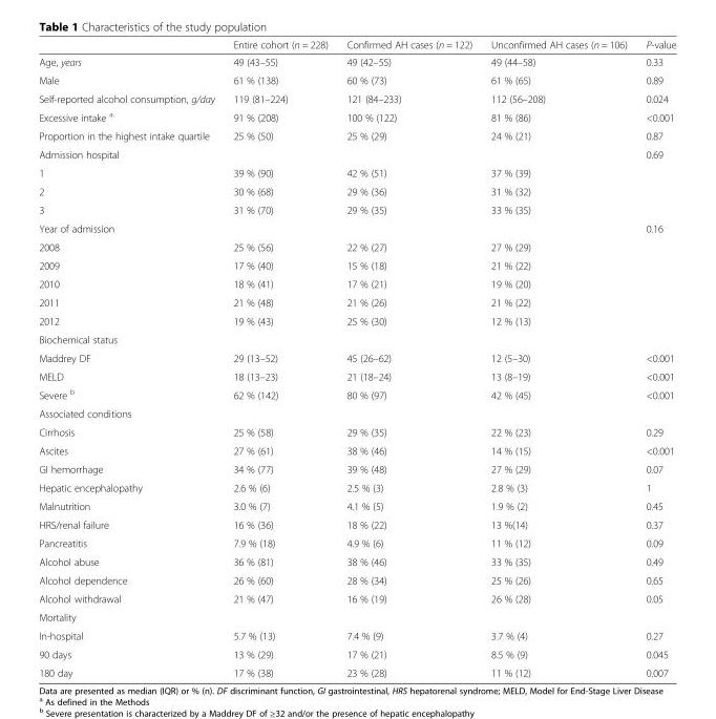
<table><thead><tr><td></td><td>Entire cohort (n = 228)</td><td>Confirmed AH cases (n = 122)</td><td>Unconfirmed AH cases (n = 106)</td><td>P-value</td></tr></thead><tbody><tr><td>Age, years</td><td>49 (43–55)</td><td>49 (42–55)</td><td>49 (44–58)</td><td>0.33</td></tr><tr><td>Male</td><td>61 % (138)</td><td>60 % (73)</td><td>61 % (65)</td><td>0.89</td></tr><tr><td>Self-reported alcohol consumption, g/day</td><td>119 (81–224)</td><td>121 (84–233)</td><td>112 (56–208)</td><td>0.024</td></tr><tr><td>Excessive intake <sup>a</sup></td><td>91 % (208)</td><td>100 % (122)</td><td>81 % (86)</td><td>&lt;0.001</td></tr><tr><td>Proportion in the highest intake quartile</td><td>25 % (50)</td><td>25 % (29)</td><td>24 % (21)</td><td>0.87</td></tr><tr><td colspan="4">Admission hospital</td><td rowspan="4">0.69</td></tr><tr><td>1</td><td>39 % (90)</td><td>42 % (51)</td><td>37 % (39)</td></tr><tr><td>2</td><td>30 % (68)</td><td>29 % (36)</td><td>31 % (32)</td></tr><tr><td>3</td><td>31 % (70)</td><td>29 % (35)</td><td>33 % (35)</td></tr><tr><td colspan="4">Year of admission</td><td rowspan="6">0.16</td></tr><tr><td>2008</td><td>25 % (56)</td><td>22 % (27)</td><td>27 % (29)</td></tr><tr><td>2009</td><td>17 % (40)</td><td>15 % (18)</td><td>21 % (22)</td></tr><tr><td>2010</td><td>18 % (41)</td><td>17 % (21)</td><td>19 % (20)</td></tr><tr><td>2011</td><td>21 % (48)</td><td>21 % (26)</td><td>21 % (22)</td></tr><tr><td>2012</td><td>19 % (43)</td><td>25 % (30)</td><td>12 % (13)</td></tr><tr><td colspan="5">Biochemical status</td></tr><tr><td>Maddrey DF</td><td>29 (13–52)</td><td>45 (26–62)</td><td>12 (5–30)</td><td>&lt;0.001</td></tr><tr><td>MELD</td><td>18 (13–23)</td><td>21 (18–24)</td><td>13 (8–19)</td><td>&lt;0.001</td></tr><tr><td>Severe <sup>b</sup></td><td>62 % (142)</td><td>80 % (97)</td><td>42 % (45)</td><td>&lt;0.001</td></tr><tr><td colspan="5">Associated conditions</td></tr><tr><td>Cirrhosis</td><td>25 % (58)</td><td>29 % (35)</td><td>22 % (23)</td><td>0.29</td></tr><tr><td>Ascites</td><td>27 % (61)</td><td>38 % (46)</td><td>14 % (15)</td><td>&lt;0.001</td></tr><tr><td>GI hemorrhage</td><td>34 % (77)</td><td>39 % (48)</td><td>27 % (29)</td><td>0.07</td></tr><tr><td>Hepatic encephalopathy</td><td>2.6 % (6)</td><td>2.5 % (3)</td><td>2.8 % (3)</td><td>1</td></tr><tr><td>Malnutrition</td><td>3.0 % (7)</td><td>4.1 % (5)</td><td>1.9 % (2)</td><td>0.45</td></tr><tr><td>HRS/renal failure</td><td>16 % (36)</td><td>18 % (22)</td><td>13 %(14)</td><td>0.37</td></tr><tr><td>Pancreatitis</td><td>7.9 % (18)</td><td>4.9 % (6)</td><td>11 % (12)</td><td>0.09</td></tr><tr><td>Alcohol abuse</td><td>36 % (81)</td><td>38 % (46)</td><td>33 % (35)</td><td>0.49</td></tr><tr><td>Alcohol dependence</td><td>26 % (60)</td><td>28 % (34)</td><td>25 % (26)</td><td>0.65</td></tr><tr><td>Alcohol withdrawal</td><td>21 % (47)</td><td>16 % (19)</td><td>26 % (28)</td><td>0.05</td></tr><tr><td colspan="5">Mortality</td></tr><tr><td>In-hospital</td><td>5.7 % (13)</td><td>7.4 % (9)</td><td>3.7 % (4)</td><td>0.27</td></tr><tr><td>90 days</td><td>13 % (29)</td><td>17 % (21)</td><td>8.5 % (9)</td><td>0.045</td></tr><tr><td>180 day</td><td>17 % (38)</td><td>23 % (28)</td><td>11 % (12)</td><td>0.007</td></tr></tbody></table>